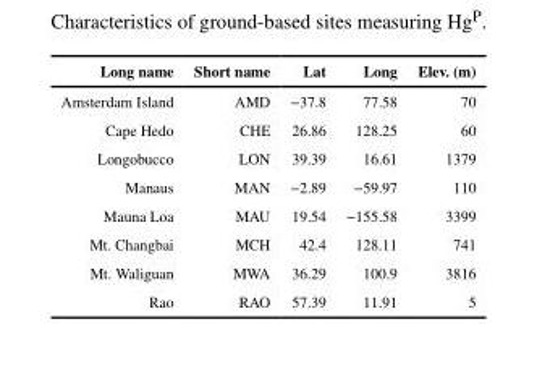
<table><thead><tr><td>Long name</td><td>Short name</td><td>Lat</td><td>Long</td><td>Elev. (m)</td></tr></thead><tbody><tr><td>Amsterdam Island</td><td>AMD</td><td>−37.8</td><td>77.58</td><td>70</td></tr><tr><td>Cape Hedo</td><td>CHE</td><td>26.86</td><td>128.25</td><td>60</td></tr><tr><td>Longobucco</td><td>LON</td><td>39.39</td><td>16.61</td><td>1379</td></tr><tr><td>Manaus</td><td>MAN</td><td>−2.89</td><td>−59.97</td><td>110</td></tr><tr><td>Mauna Loa</td><td>MAU</td><td>19.54</td><td>−155.58</td><td>3399</td></tr><tr><td>Mt. Changbai</td><td>MCH</td><td>42.4</td><td>128.11</td><td>741</td></tr><tr><td>Mt. Waliguan</td><td>MWA</td><td>36.29</td><td>100.9</td><td>3816</td></tr><tr><td>Rao</td><td>RAO</td><td>57.39</td><td>11.91</td><td>5</td></tr></tbody></table>